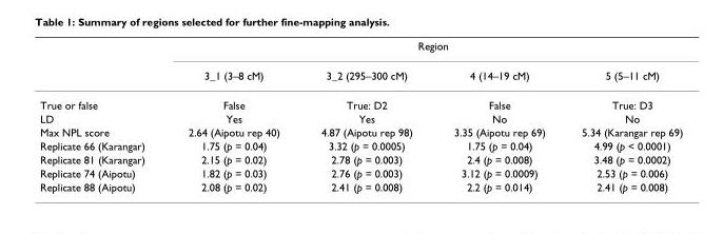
<table><thead><tr><td rowspan="2"></td><td colspan="4">Region</td></tr><tr><td>3_1 (3–8 cM)</td><td>3_2 (295–300 cM)</td><td>4 (14–19 cM)</td><td>5 (5–11 cM)</td></tr></thead><tbody><tr><td>True or false</td><td>False</td><td>True: D2</td><td>False</td><td>True: D3</td></tr><tr><td>LD</td><td>Yes</td><td>Yes</td><td>No</td><td>No</td></tr><tr><td>Max NPL score</td><td>2.64 (Aipotu rep 40)</td><td>4.87 (Aipotu rep 98)</td><td>3.35 (Aipotu rep 69)</td><td>5.34 (Karangar rep 69)</td></tr><tr><td>Replicate 66 (Karangar)</td><td>1.75 (p = 0.04)</td><td>3.32 (p = 0.0005)</td><td>1.75 (p = 0.04)</td><td>4.99 (p &lt; 0.0001)</td></tr><tr><td>Replicate 81 (Karangar)</td><td>2.15 (p = 0.02)</td><td>2.78 (p = 0.003)</td><td>2.4 (p = 0.008)</td><td>3.48 (p = 0.0002)</td></tr><tr><td>Replicate 74 (Aipotu)</td><td>1.82 (p = 0.03)</td><td>2.76 (p = 0.003)</td><td>3.12 (p = 0.0009)</td><td>2.53 (p = 0.006)</td></tr><tr><td>Replicate 88 (Aipotu)</td><td>2.08 (p = 0.02)</td><td>2.41 (p = 0.008)</td><td>2.2 (p = 0.014)</td><td>2.41 (p = 0.008)</td></tr></tbody></table>